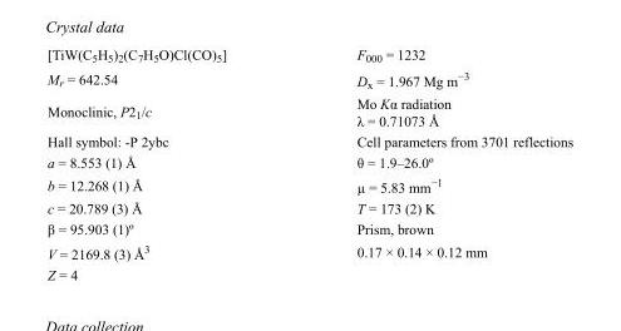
<table><tbody><tr><td>[TiW(C<sub>5</sub>H<sub>5</sub>)<sub>2</sub>(C<sub>7</sub>H<sub>5</sub>O)Cl(CO)<sub>5</sub>]</td><td>F<sub>000</sub> = 1232</td></tr><tr><td>M<sub>r</sub> = 642.54</td><td>D<sub>x</sub> = 1.967 Mg m<sup>−3</sup></td></tr><tr><td>Monoclinic, P2<sub>1</sub>/c</td><td>Mo Kα radiation λ = 0.71073 Å</td></tr><tr><td>Hall symbol: -P 2ybc</td><td>Cell parameters from 3701 reflections</td></tr><tr><td>a = 8.553 (1) Å</td><td>θ = 1.9–26.0º</td></tr><tr><td>b = 12.268 (1) Å</td><td>µ = 5.83 mm<sup>−1</sup></td></tr><tr><td>c = 20.789 (3) Å</td><td>T = 173 (2) K</td></tr><tr><td>β = 95.903 (1)º</td><td>Prism, brown</td></tr><tr><td>V = 2169.8 (3) Å<sup>3</sup></td><td>0.17 × 0.14 × 0.12 mm</td></tr><tr><td>Z = 4</td><td></td></tr></tbody></table>